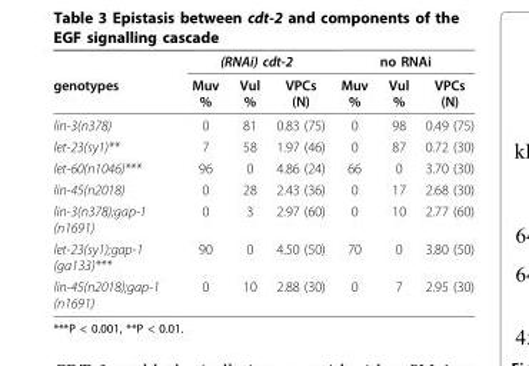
<table><thead><tr><td rowspan="2">genotypes</td><td colspan="3">(RNAi) cdt-2</td><td colspan="3">no RNAi</td></tr><tr><td>Muv %</td><td>Vul %</td><td>VPCs (N)</td><td>Muv %</td><td>Vul %</td><td>VPCs (N)</td></tr></thead><tbody><tr><td>lin-3(n378)</td><td>0</td><td>81</td><td>0.83 (75)</td><td>0</td><td>98</td><td>0.49 (75)</td></tr><tr><td>let-23(sy1)**</td><td>7</td><td>58</td><td>1.97 (46)</td><td>0</td><td>87</td><td>0.72 (30)</td></tr><tr><td>let-60(n1046)***</td><td>96</td><td>0</td><td>4.86 (24)</td><td>66</td><td>0</td><td>3.70 (30)</td></tr><tr><td>lin-45(n2018)</td><td>0</td><td>28</td><td>2.43 (36)</td><td>0</td><td>17</td><td>2.68 (30)</td></tr><tr><td>lin-3(n378);gap-1 (n1691)</td><td>0</td><td>3</td><td>2.97 (60)</td><td>0</td><td>10</td><td>2.77 (60)</td></tr><tr><td>let-23(sy1);gap-1 (ga133)***</td><td>90</td><td>0</td><td>4.50 (50)</td><td>70</td><td>0</td><td>3.80 (50)</td></tr><tr><td>lin-45(n2018);gap-1 (n1691)</td><td>0</td><td>10</td><td>2.88 (30)</td><td>0</td><td>7</td><td>2.95 (30)</td></tr></tbody></table>